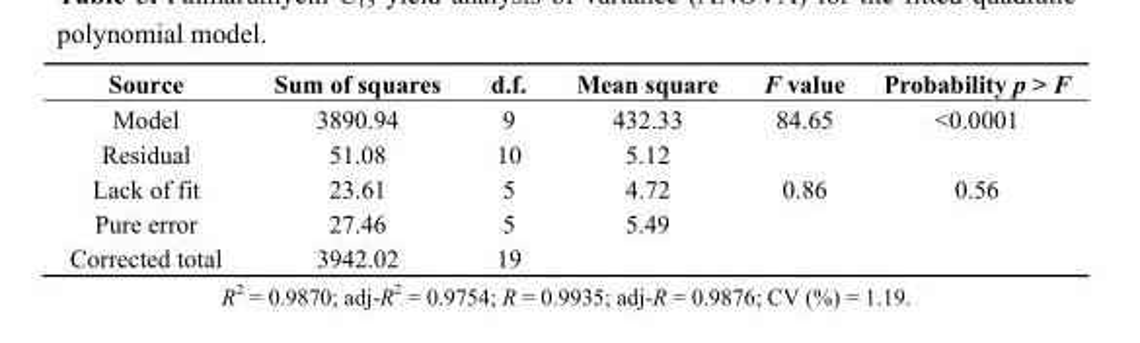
<table><thead><tr><td>Source</td><td>Sum of squares</td><td>d.f.</td><td>Mean square</td><td>F value</td><td>Probability p &gt;</td><td>F</td></tr></thead><tbody><tr><td>Model</td><td>3890.94</td><td>9</td><td>432.33</td><td>84.65</td><td>&lt;0.0001</td><td></td></tr><tr><td>Residual</td><td>51.08</td><td>10</td><td>5.12</td><td></td><td></td><td></td></tr><tr><td>Lack of fit</td><td>23.61</td><td>5</td><td>4.72</td><td>0.86</td><td>0.56</td><td></td></tr><tr><td>Pure error</td><td>27.46</td><td>5</td><td>5.49</td><td></td><td></td><td></td></tr><tr><td>Corrected total</td><td>3942.02</td><td>19</td><td></td><td></td><td></td><td></td></tr></tbody></table>